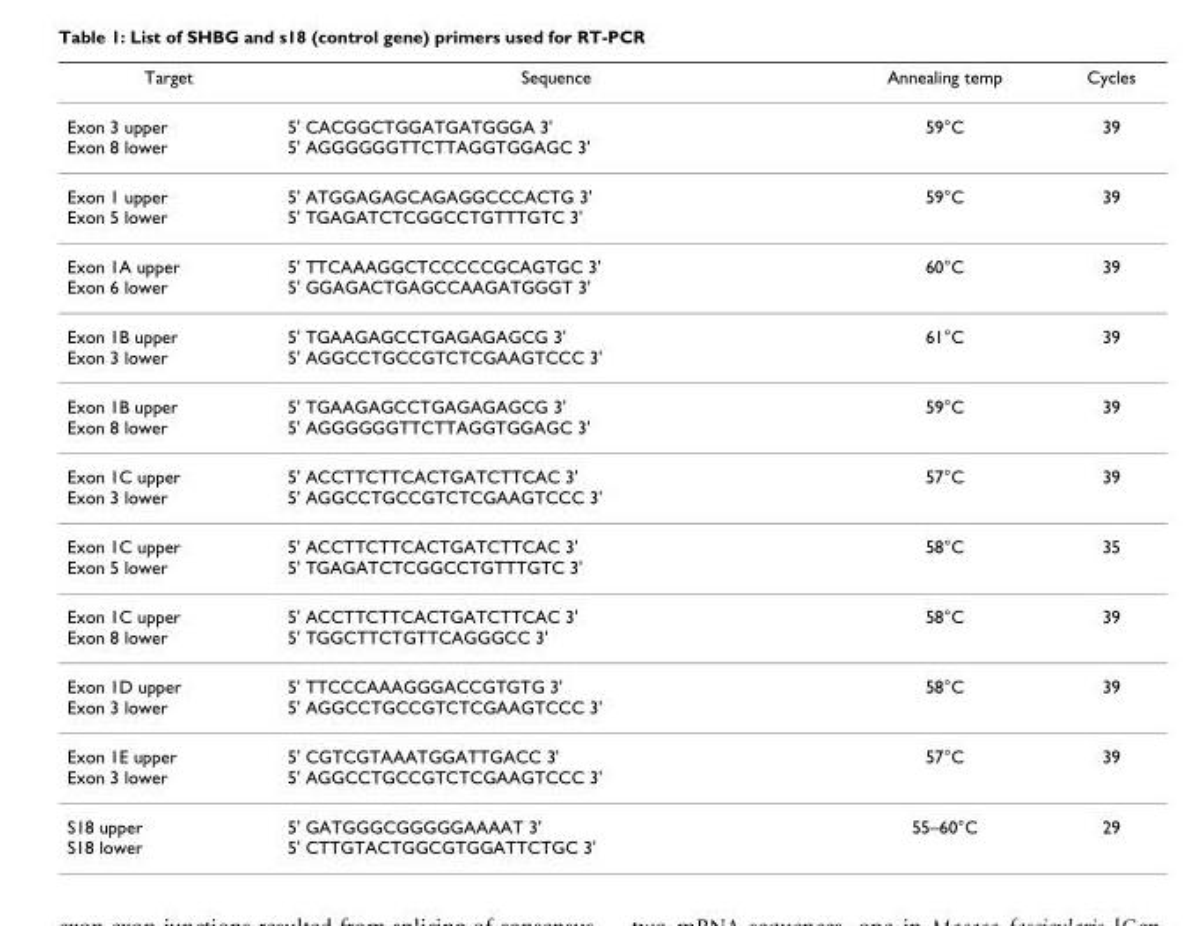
<table><thead><tr><td>Target</td><td>Sequence</td><td>Annealing temp</td><td>Cycles</td></tr></thead><tbody><tr><td>Exon 3 upper Exon 8 lower</td><td>5&#x27; CACGGCTGGATGATGGGA 3&#x27; 5&#x27; AGGGGGGTTCTTAGGTGGAGC 3&#x27;</td><td>59°C</td><td>39</td></tr><tr><td>Exon 1 upper Exon 5 lower</td><td>5&#x27; ATGGAGAGCAGAGGCCCACTG 3&#x27; 5&#x27; TGAGATCTCGGCCTGTTTGTC 3&#x27;</td><td>59°C</td><td>39</td></tr><tr><td>Exon 1A upper Exon 6 lower</td><td>5&#x27; TTCAAAGGCTCCCCCGCAGTGC 3&#x27; 5&#x27; GGAGACTGAGCCAAGATGGGT 3&#x27;</td><td>60°C</td><td>39</td></tr><tr><td>Exon 1B upper Exon 3 lower</td><td>5&#x27; TGAAGAGCCTGAGAGAGCG 3&#x27; 5&#x27; AGGCCTGCCGTCTCGAAGTCCC 3&#x27;</td><td>61°C</td><td>39</td></tr><tr><td>Exon 1B upper Exon 8 lower</td><td>5&#x27; TGAAGAGCCTGAGAGAGCG 3&#x27; 5&#x27; AGGGGGGTTCTTAGGTGGAGC 3&#x27;</td><td>59°C</td><td>39</td></tr><tr><td>Exon 1C upper Exon 3 lower</td><td>5&#x27; ACCTTCTTCACTGATCTTCAC 3&#x27; 5&#x27; AGGCCTGCCGTCTCGAAGTCCC 3&#x27;</td><td>57°C</td><td>39</td></tr><tr><td>Exon 1C upper Exon 5 lower</td><td>5&#x27; ACCTTCTTCACTGATCTTCAC 3&#x27; 5&#x27; TGAGATCTCGGCCTGTTTGTC 3&#x27;</td><td>58°C</td><td>35</td></tr><tr><td>Exon 1C upper Exon 8 lower</td><td>5&#x27; ACCTTCTTCACTGATCTTCAC 3&#x27; 5&#x27; TGGCTTCTGTTCAGGGCC 3&#x27;</td><td>58°C</td><td>39</td></tr><tr><td>Exon 1D upper Exon 3 lower</td><td>5&#x27; TTCCCAAAGGGACCGTGTG 3&#x27; 5&#x27; AGGCCTGCCGTCTCGAAGTCCC 3&#x27;</td><td>58°C</td><td>39</td></tr><tr><td>Exon 1E upper Exon 3 lower</td><td>5&#x27; CGTCGTAAATGGATTGACC 3&#x27; 5&#x27; AGGCCTGCCGTCTCGAAGTCCC 3&#x27;</td><td>57°C</td><td>39</td></tr><tr><td>S18 upper S18 lower</td><td>5&#x27; GATGGGCGGGGGAAAAT 3&#x27; 5&#x27; CTTGTACTGGCGTGGATTCTGC 3&#x27;</td><td>55–60°C</td><td>29</td></tr></tbody></table>